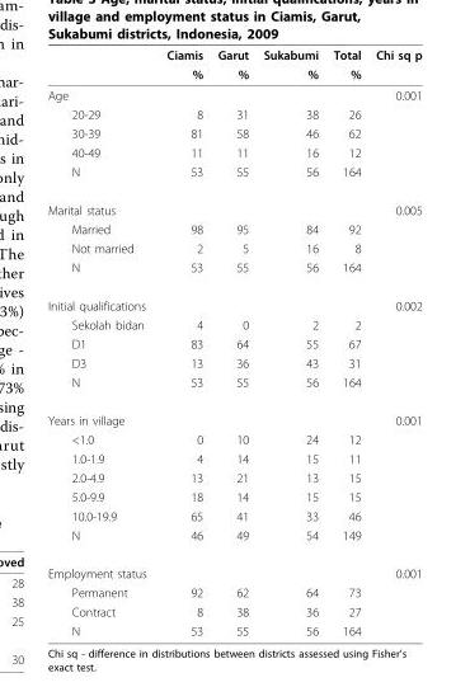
<table><thead><tr><td rowspan="2"></td><td rowspan="2">Ciamis %</td><td rowspan="2">Garut %</td><td rowspan="2">Sukabumi %</td><td rowspan="2">Total %</td><td rowspan="2">Chi sq p</td></tr><tr></tr></thead><tbody><tr><td>Age</td><td></td><td></td><td></td><td></td><td>0.001</td></tr><tr><td>20-29</td><td>8</td><td>31</td><td>38</td><td>26</td><td></td></tr><tr><td>30-39</td><td>81</td><td>58</td><td>46</td><td>62</td><td></td></tr><tr><td>40-49</td><td>11</td><td>11</td><td>16</td><td>12</td><td></td></tr><tr><td>N</td><td>53</td><td>55</td><td>56</td><td>164</td><td></td></tr><tr><td>Marital status</td><td></td><td></td><td></td><td></td><td>0.005</td></tr><tr><td>Married</td><td>98</td><td>95</td><td>84</td><td>92</td><td></td></tr><tr><td>Not married</td><td>2</td><td>5</td><td>16</td><td>8</td><td></td></tr><tr><td>N</td><td>53</td><td>55</td><td>56</td><td>164</td><td></td></tr><tr><td>Initial qualifications</td><td></td><td></td><td></td><td></td><td>0.002</td></tr><tr><td>Sekolah bidan</td><td>4</td><td>0</td><td>2</td><td>2</td><td></td></tr><tr><td>D1</td><td>83</td><td>64</td><td>55</td><td>67</td><td></td></tr><tr><td>D3</td><td>13</td><td>36</td><td>43</td><td>31</td><td></td></tr><tr><td>N</td><td>53</td><td>55</td><td>56</td><td>164</td><td></td></tr><tr><td>Years in village</td><td></td><td></td><td></td><td></td><td>0.001</td></tr><tr><td>&lt;1.0</td><td>0</td><td>10</td><td>24</td><td>12</td><td></td></tr><tr><td>1.0-1.9</td><td>4</td><td>14</td><td>15</td><td>11</td><td></td></tr><tr><td>2.0-4.9</td><td>13</td><td>21</td><td>13</td><td>15</td><td></td></tr><tr><td>5.0-9.9</td><td>18</td><td>14</td><td>15</td><td>15</td><td></td></tr><tr><td>10.0-19.9</td><td>65</td><td>41</td><td>33</td><td>46</td><td></td></tr><tr><td>N</td><td>46</td><td>49</td><td>54</td><td>149</td><td></td></tr><tr><td>Employment status</td><td></td><td></td><td></td><td></td><td>0.001</td></tr><tr><td>Permanent</td><td>92</td><td>62</td><td>64</td><td>73</td><td></td></tr><tr><td>Contract</td><td>8</td><td>38</td><td>36</td><td>27</td><td></td></tr><tr><td>N</td><td>53</td><td>55</td><td>56</td><td>164</td><td></td></tr></tbody></table>